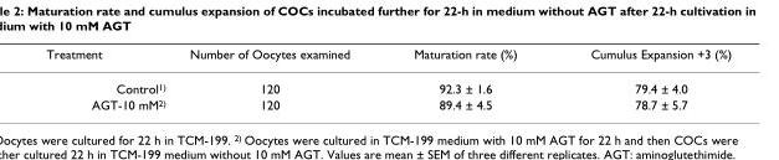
<table><thead><tr><td>Treatment</td><td>Number of Oocytes examined</td><td>Maturation rate (%)</td><td>Cumulus Expansion +3 (%)</td></tr></thead><tbody><tr><td>Control<sup>1)</sup></td><td>120</td><td>92.3 ± 1.6</td><td>79.4 ± 4.0</td></tr><tr><td>AGT-10 mM<sup>2)</sup></td><td>120</td><td>89.4 ± 4.5</td><td>78.7 ± 5.7</td></tr></tbody></table>